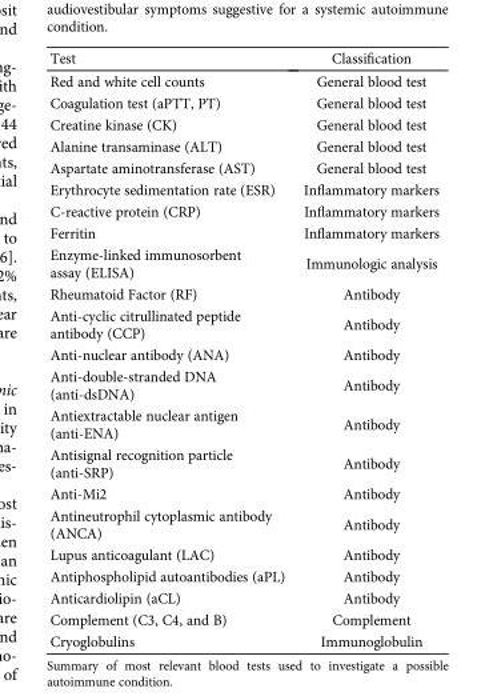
<table><thead><tr><td>Test</td><td>Classification</td></tr></thead><tbody><tr><td>Red and white cell counts</td><td>General blood test</td></tr><tr><td>Coagulation test (aPTT, PT)</td><td>General blood test</td></tr><tr><td>Creatine kinase (CK)</td><td>General blood test</td></tr><tr><td>Alanine transaminase (ALT)</td><td>General blood test</td></tr><tr><td>Aspartate aminotransferase (AST)</td><td>General blood test</td></tr><tr><td>Erythrocyte sedimentation rate (ESR)</td><td>Inflammatory markers</td></tr><tr><td>C-reactive protein (CRP)</td><td>Inflammatory markers</td></tr><tr><td>Ferritin</td><td>Inflammatory markers</td></tr><tr><td>Enzyme-linked immunosorbent assay (ELISA)</td><td>Immunologic analysis</td></tr><tr><td>Rheumatoid Factor (RF)</td><td>Antibody</td></tr><tr><td>Anti-cyclic citrullinated peptide antibody (CCP)</td><td>Antibody</td></tr><tr><td>Anti-nuclear antibody (ANA)</td><td>Antibody</td></tr><tr><td>Anti-double-stranded DNA (anti-dsDNA)</td><td>Antibody</td></tr><tr><td>Antiextractable nuclear antigen (anti-ENA)</td><td>Antibody</td></tr><tr><td>Antisignal recognition particle (anti-SRP)</td><td>Antibody</td></tr><tr><td>Anti-Mi2</td><td>Antibody</td></tr><tr><td>Antineutrophil cytoplasmic antibody (ANCA)</td><td>Antibody</td></tr><tr><td>Lupus anticoagulant (LAC)</td><td>Antibody</td></tr><tr><td>Antiphospholipid autoantibodies (aPL)</td><td>Antibody</td></tr><tr><td>Anticardiolipin (aCL)</td><td>Antibody</td></tr><tr><td>Complement (C3, C4, and B)</td><td>Complement</td></tr><tr><td>Cryoglobulins</td><td>Immunoglobulin</td></tr></tbody></table>